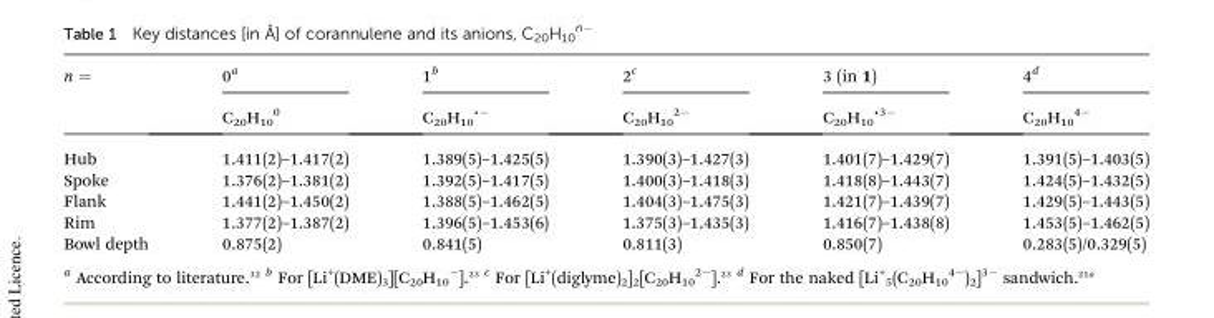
<table><thead><tr><td rowspan="2">n =</td><td rowspan="2">0<sup>a</sup> C<sub>20</sub>H<sub>10</sub> <sup>0</sup></td><td rowspan="2">1<sup>b</sup> C<sub>20</sub>H<sub>10</sub>˙<sup>–</sup></td><td rowspan="2">2<sup>c</sup> C<sub>20</sub>H<sub>10</sub> <sup>2–</sup></td><td rowspan="2">3 (in 1) C<sub>20</sub>H<sub>10</sub>˙<sup>3–</sup></td><td rowspan="2">4<sup>d</sup> C<sub>20</sub>H<sub>10</sub> <sup>4–</sup></td></tr><tr></tr></thead><tbody><tr><td>Hub</td><td>1.411(2)–1.417(2)</td><td>1.389(5)–1.425(5)</td><td>1.390(3)–1.427(3)</td><td>1.401(7)–1.429(7)</td><td>1.391(5)–1.403(5)</td></tr><tr><td>Spoke</td><td>1.376(2)–1.381(2)</td><td>1.392(5)–1.417(5)</td><td>1.400(3)–1.418(3)</td><td>1.418(8)–1.443(7)</td><td>1.424(5)–1.432(5)</td></tr><tr><td>Flank</td><td>1.441(2)–1.450(2)</td><td>1.388(5)–1.462(5)</td><td>1.404(3)–1.475(3)</td><td>1.421(7)–1.439(7)</td><td>1.429(5)–1.443(5)</td></tr><tr><td>Rim</td><td>1.377(2)–1.387(2)</td><td>1.396(5)–1.453(6)</td><td>1.375(3)–1.435(3)</td><td>1.416(7)–1.438(8)</td><td>1.453(5)–1.462(5)</td></tr><tr><td>Bowl depth</td><td>0.875(2)</td><td>0.841(5)</td><td>0.811(3)</td><td>0.850(7)</td><td>0.283(5)/0.329(5)</td></tr></tbody></table>